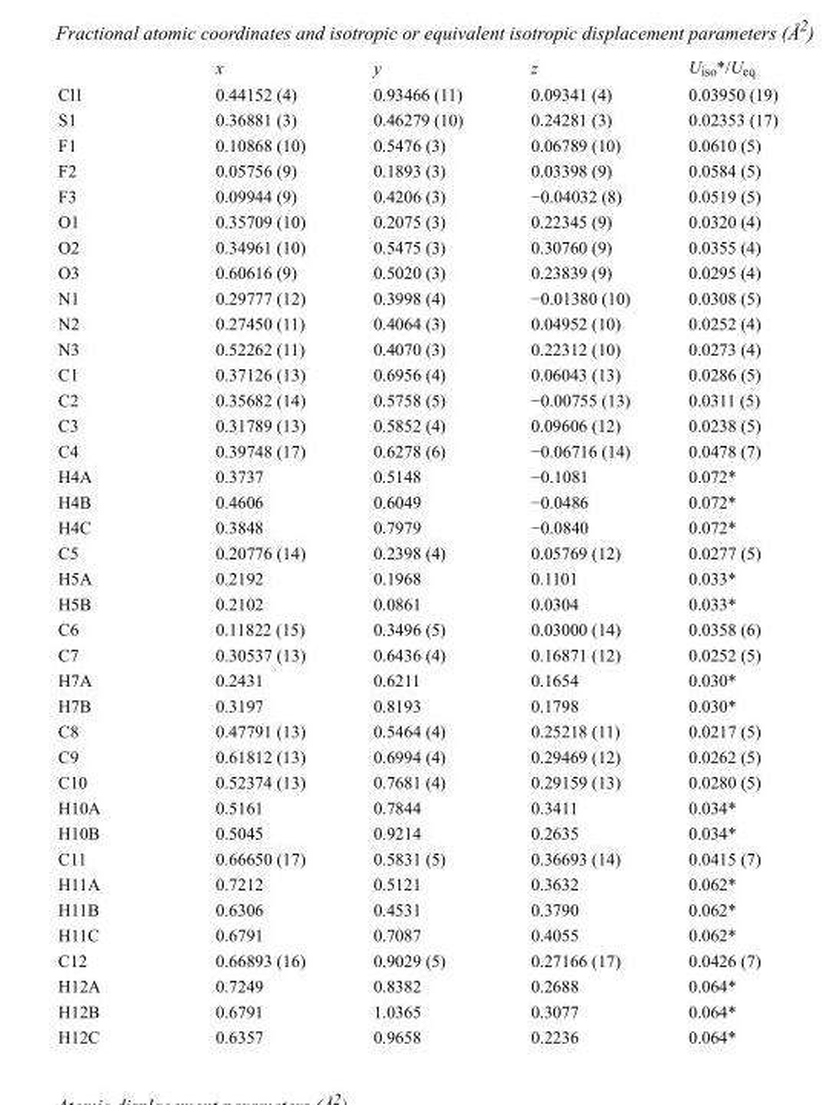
<table><thead><tr><td></td><td>x</td><td>y</td><td>z</td><td>U<sub>iso</sub>*/U<sub>eq</sub></td></tr></thead><tbody><tr><td>Cl1</td><td>0.44152 (4)</td><td>0.93466 (11)</td><td>0.09341 (4)</td><td>0.03950 (19)</td></tr><tr><td>S1</td><td>0.36881 (3)</td><td>0.46279 (10)</td><td>0.24281 (3)</td><td>0.02353 (17)</td></tr><tr><td>F1</td><td>0.10868 (10)</td><td>0.5476 (3)</td><td>0.06789 (10)</td><td>0.0610 (5)</td></tr><tr><td>F2</td><td>0.05756 (9)</td><td>0.1893 (3)</td><td>0.03398 (9)</td><td>0.0584 (5)</td></tr><tr><td>F3</td><td>0.09944 (9)</td><td>0.4206 (3)</td><td>−0.04032 (8)</td><td>0.0519 (5)</td></tr><tr><td>O1</td><td>0.35709 (10)</td><td>0.2075 (3)</td><td>0.22345 (9)</td><td>0.0320 (4)</td></tr><tr><td>O2</td><td>0.34961 (10)</td><td>0.5475 (3)</td><td>0.30760 (9)</td><td>0.0355 (4)</td></tr><tr><td>O3</td><td>0.60616 (9)</td><td>0.5020 (3)</td><td>0.23839 (9)</td><td>0.0295 (4)</td></tr><tr><td>N1</td><td>0.29777 (12)</td><td>0.3998 (4)</td><td>−0.01380 (10)</td><td>0.0308 (5)</td></tr><tr><td>N2</td><td>0.27450 (11)</td><td>0.4064 (3)</td><td>0.04952 (10)</td><td>0.0252 (4)</td></tr><tr><td>N3</td><td>0.52262 (11)</td><td>0.4070 (3)</td><td>0.22312 (10)</td><td>0.0273 (4)</td></tr><tr><td>C1</td><td>0.37126 (13)</td><td>0.6956 (4)</td><td>0.06043 (13)</td><td>0.0286 (5)</td></tr><tr><td>C2</td><td>0.35682 (14)</td><td>0.5758 (5)</td><td>−0.00755 (13)</td><td>0.0311 (5)</td></tr><tr><td>C3</td><td>0.31789 (13)</td><td>0.5852 (4)</td><td>0.09606 (12)</td><td>0.0238 (5)</td></tr><tr><td>C4</td><td>0.39748 (17)</td><td>0.6278 (6)</td><td>−0.06716 (14)</td><td>0.0478 (7)</td></tr><tr><td>H4A</td><td>0.3737</td><td>0.5148</td><td>−0.1081</td><td>0.072*</td></tr><tr><td>H4B</td><td>0.4606</td><td>0.6049</td><td>−0.0486</td><td>0.072*</td></tr><tr><td>H4C</td><td>0.3848</td><td>0.7979</td><td>−0.0840</td><td>0.072*</td></tr><tr><td>C5</td><td>0.20776 (14)</td><td>0.2398 (4)</td><td>0.05769 (12)</td><td>0.0277 (5)</td></tr><tr><td>H5A</td><td>0.2192</td><td>0.1968</td><td>0.1101</td><td>0.033*</td></tr><tr><td>H5B</td><td>0.2102</td><td>0.0861</td><td>0.0304</td><td>0.033*</td></tr><tr><td>C6</td><td>0.11822 (15)</td><td>0.3496 (5)</td><td>0.03000 (14)</td><td>0.0358 (6)</td></tr><tr><td>C7</td><td>0.30537 (13)</td><td>0.6436 (4)</td><td>0.16871 (12)</td><td>0.0252 (5)</td></tr><tr><td>H7A</td><td>0.2431</td><td>0.6211</td><td>0.1654</td><td>0.030*</td></tr><tr><td>H7B</td><td>0.3197</td><td>0.8193</td><td>0.1798</td><td>0.030*</td></tr><tr><td>C8</td><td>0.47791 (13)</td><td>0.5464 (4)</td><td>0.25218 (11)</td><td>0.0217 (5)</td></tr><tr><td>C9</td><td>0.61812 (13)</td><td>0.6994 (4)</td><td>0.29469 (12)</td><td>0.0262 (5)</td></tr><tr><td>C10</td><td>0.52374 (13)</td><td>0.7681 (4)</td><td>0.29159 (13)</td><td>0.0280 (5)</td></tr><tr><td>H10A</td><td>0.5161</td><td>0.7844</td><td>0.3411</td><td>0.034*</td></tr><tr><td>H10B</td><td>0.5045</td><td>0.9214</td><td>0.2635</td><td>0.034*</td></tr><tr><td>C11</td><td>0.66650 (17)</td><td>0.5831 (5)</td><td>0.36693 (14)</td><td>0.0415 (7)</td></tr><tr><td>H11A</td><td>0.7212</td><td>0.5121</td><td>0.3632</td><td>0.062*</td></tr><tr><td>H11B</td><td>0.6306</td><td>0.4531</td><td>0.3790</td><td>0.062*</td></tr><tr><td>H11C</td><td>0.6791</td><td>0.7087</td><td>0.4055</td><td>0.062*</td></tr><tr><td>C12</td><td>0.66893 (16)</td><td>0.9029 (5)</td><td>0.27166 (17)</td><td>0.0426 (7)</td></tr><tr><td>H12A</td><td>0.7249</td><td>0.8382</td><td>0.2688</td><td>0.064*</td></tr><tr><td>H12B</td><td>0.6791</td><td>1.0365</td><td>0.3077</td><td>0.064*</td></tr><tr><td>H12C</td><td>0.6357</td><td>0.9658</td><td>0.2236</td><td>0.064*</td></tr></tbody></table>